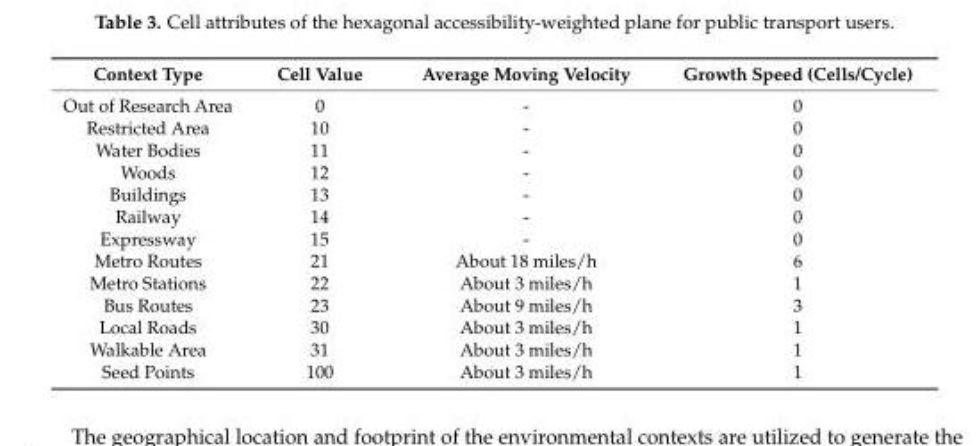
<table><thead><tr><td>Context Type</td><td>Cell Value</td><td>Average Moving Velocity</td><td>Growth Speed (Cells/Cycle)</td></tr></thead><tbody><tr><td>Out of Research Area</td><td>0</td><td>-</td><td>0</td></tr><tr><td>Restricted Area</td><td>10</td><td>-</td><td>0</td></tr><tr><td>Water Bodies</td><td>11</td><td>-</td><td>0</td></tr><tr><td>Woods</td><td>12</td><td>-</td><td>0</td></tr><tr><td>Buildings</td><td>13</td><td>-</td><td>0</td></tr><tr><td>Railway</td><td>14</td><td>-</td><td>0</td></tr><tr><td>Expressway</td><td>15</td><td>-</td><td>0</td></tr><tr><td>Metro Routes</td><td>21</td><td>About 18 miles/h</td><td>6</td></tr><tr><td>Metro Stations</td><td>22</td><td>About 3 miles/h</td><td>1</td></tr><tr><td>Bus Routes</td><td>23</td><td>About 9 miles/h</td><td>3</td></tr><tr><td>Local Roads</td><td>30</td><td>About 3 miles/h</td><td>1</td></tr><tr><td>Walkable Area</td><td>31</td><td>About 3 miles/h</td><td>1</td></tr><tr><td>Seed Points</td><td>100</td><td>About 3 miles/h</td><td>1</td></tr></tbody></table>